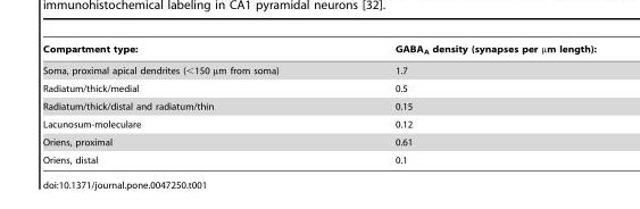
<table><thead><tr><td>Compartment type:</td><td>GABA<sub>A</sub> density (synapses per µm length):</td></tr></thead><tbody><tr><td>Soma, proximal apical dendrites (&lt;150 µm from soma)</td><td>1.7</td></tr><tr><td>Radiatum/thick/medial</td><td>0.5</td></tr><tr><td>Radiatum/thick/distal and radiatum/thin</td><td>0.15</td></tr><tr><td>Lacunosum-moleculare</td><td>0.12</td></tr><tr><td>Oriens, proximal</td><td>0.61</td></tr><tr><td>Oriens, distal</td><td>0.1</td></tr></tbody></table>